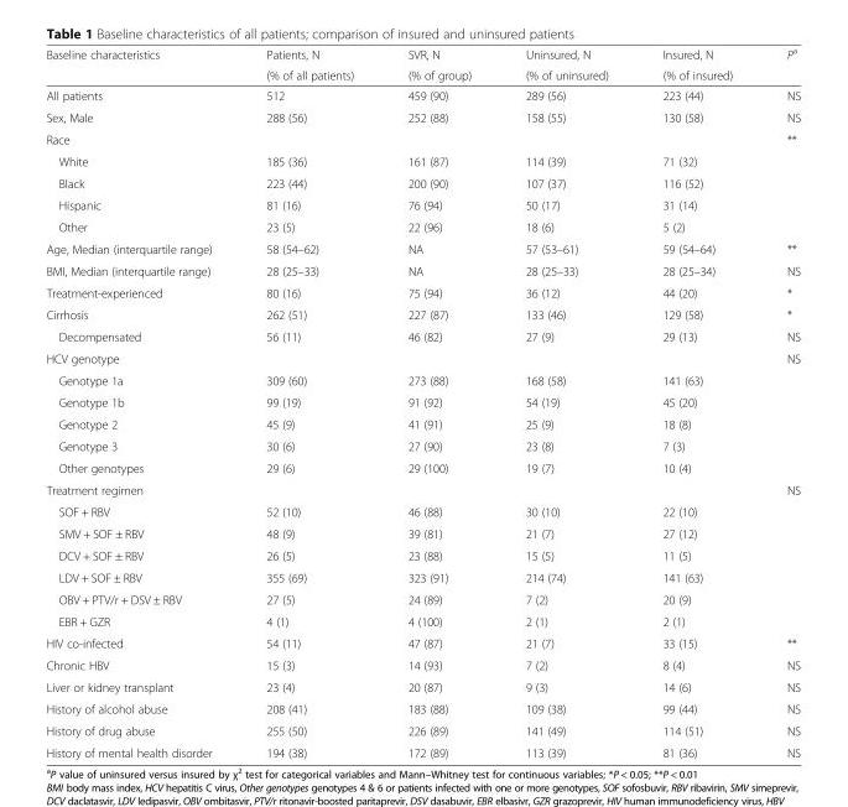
<table><thead><tr><td rowspan="2">Baseline characteristics</td><td rowspan="2">Patients, N (% of all patients)</td><td rowspan="2">SVR, N (% of group)</td><td rowspan="2">Uninsured, N (% of uninsured)</td><td rowspan="2">Insured, N (% of insured)</td><td rowspan="2">P<sup>a</sup></td></tr><tr></tr></thead><tbody><tr><td>All patients</td><td>512</td><td>459 (90)</td><td>289 (56)</td><td>223 (44)</td><td>NS</td></tr><tr><td>Sex, Male</td><td>288 (56)</td><td>252 (88)</td><td>158 (55)</td><td>130 (58)</td><td>NS</td></tr><tr><td>Race</td><td></td><td></td><td></td><td></td><td>**</td></tr><tr><td>White</td><td>185 (36)</td><td>161 (87)</td><td>114 (39)</td><td>71 (32)</td><td></td></tr><tr><td>Black</td><td>223 (44)</td><td>200 (90)</td><td>107 (37)</td><td>116 (52)</td><td></td></tr><tr><td>Hispanic</td><td>81 (16)</td><td>76 (94)</td><td>50 (17)</td><td>31 (14)</td><td></td></tr><tr><td>Other</td><td>23 (5)</td><td>22 (96)</td><td>18 (6)</td><td>5 (2)</td><td></td></tr><tr><td>Age, Median (interquartile range)</td><td>58 (54–62)</td><td>NA</td><td>57 (53–61)</td><td>59 (54–64)</td><td>**</td></tr><tr><td>BMI, Median (interquartile range)</td><td>28 (25–33)</td><td>NA</td><td>28 (25–33)</td><td>28 (25–34)</td><td>NS</td></tr><tr><td>Treatment-experienced</td><td>80 (16)</td><td>75 (94)</td><td>36 (12)</td><td>44 (20)</td><td>*</td></tr><tr><td>Cirrhosis</td><td>262 (51)</td><td>227 (87)</td><td>133 (46)</td><td>129 (58)</td><td>*</td></tr><tr><td>Decompensated</td><td>56 (11)</td><td>46 (82)</td><td>27 (9)</td><td>29 (13)</td><td>NS</td></tr><tr><td>HCV genotype</td><td></td><td></td><td></td><td></td><td>NS</td></tr><tr><td>Genotype 1a</td><td>309 (60)</td><td>273 (88)</td><td>168 (58)</td><td>141 (63)</td><td></td></tr><tr><td>Genotype 1b</td><td>99 (19)</td><td>91 (92)</td><td>54 (19)</td><td>45 (20)</td><td></td></tr><tr><td>Genotype 2</td><td>45 (9)</td><td>41 (91)</td><td>25 (9)</td><td>18 (8)</td><td></td></tr><tr><td>Genotype 3</td><td>30 (6)</td><td>27 (90)</td><td>23 (8)</td><td>7 (3)</td><td></td></tr><tr><td>Other genotypes</td><td>29 (6)</td><td>29 (100)</td><td>19 (7)</td><td>10 (4)</td><td></td></tr><tr><td>Treatment regimen</td><td></td><td></td><td></td><td></td><td>NS</td></tr><tr><td>SOF + RBV</td><td>52 (10)</td><td>46 (88)</td><td>30 (10)</td><td>22 (10)</td><td></td></tr><tr><td>SMV + SOF ± RBV</td><td>48 (9)</td><td>39 (81)</td><td>21 (7)</td><td>27 (12)</td><td></td></tr><tr><td>DCV + SOF ± RBV</td><td>26 (5)</td><td>23 (88)</td><td>15 (5)</td><td>11 (5)</td><td></td></tr><tr><td>LDV + SOF ± RBV</td><td>355 (69)</td><td>323 (91)</td><td>214 (74)</td><td>141 (63)</td><td></td></tr><tr><td>OBV + PTV/r + DSV ± RBV</td><td>27 (5)</td><td>24 (89)</td><td>7 (2)</td><td>20 (9)</td><td></td></tr><tr><td>EBR + GZR</td><td>4 (1)</td><td>4 (100)</td><td>2 (1)</td><td>2 (1)</td><td></td></tr><tr><td>HIV co-infected</td><td>54 (11)</td><td>47 (87)</td><td>21 (7)</td><td>33 (15)</td><td>**</td></tr><tr><td>Chronic HBV</td><td>15 (3)</td><td>14 (93)</td><td>7 (2)</td><td>8 (4)</td><td>NS</td></tr><tr><td>Liver or kidney transplant</td><td>23 (4)</td><td>20 (87)</td><td>9 (3)</td><td>14 (6)</td><td>NS</td></tr><tr><td>History of alcohol abuse</td><td>208 (41)</td><td>183 (88)</td><td>109 (38)</td><td>99 (44)</td><td>NS</td></tr><tr><td>History of drug abuse</td><td>255 (50)</td><td>226 (89)</td><td>141 (49)</td><td>114 (51)</td><td>NS</td></tr><tr><td>History of mental health disorder</td><td>194 (38)</td><td>172 (89)</td><td>113 (39)</td><td>81 (36)</td><td>NS</td></tr></tbody></table>